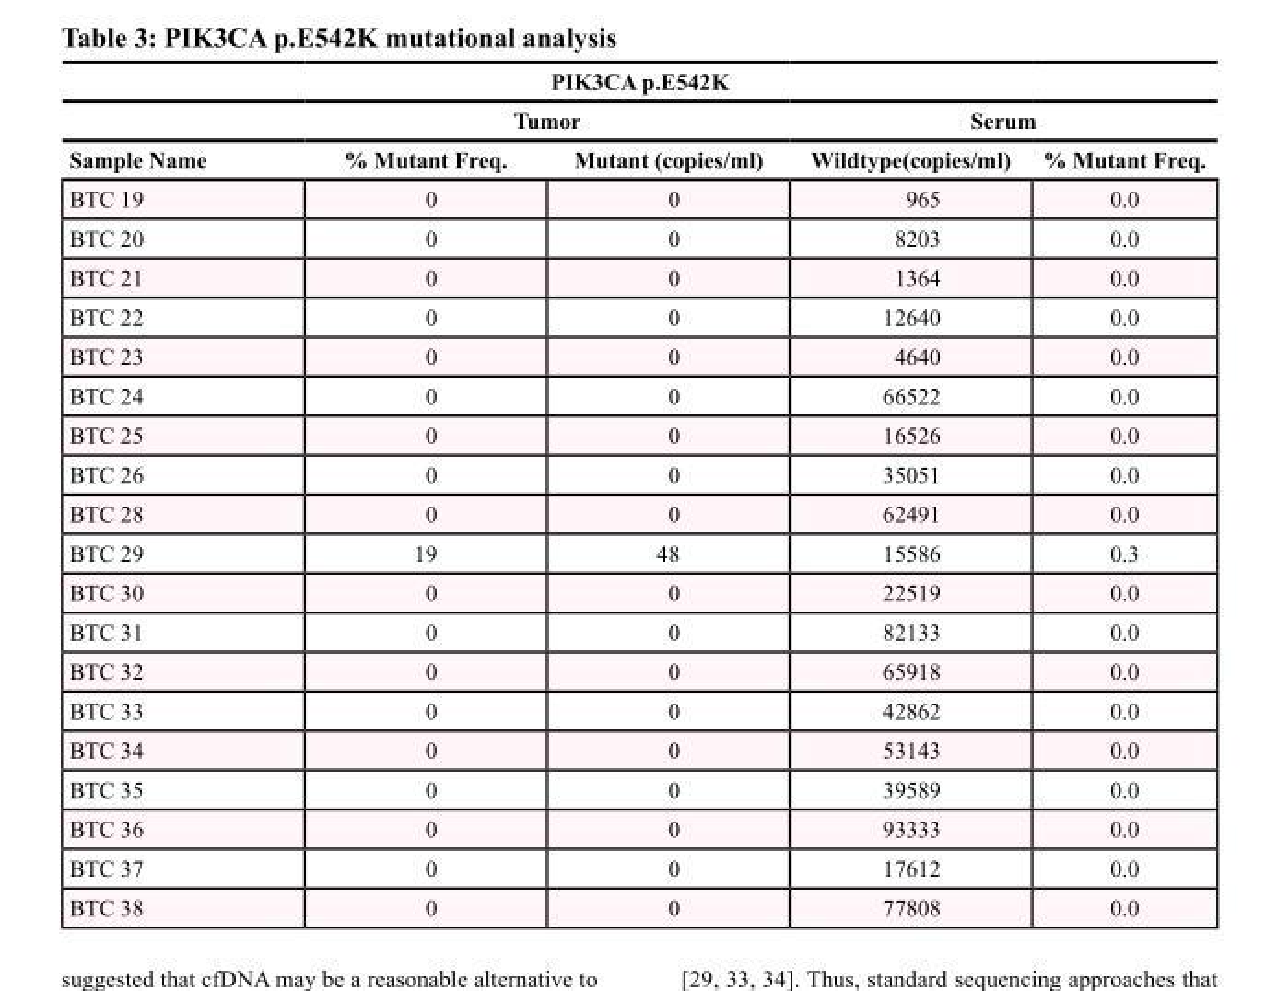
<table><thead><tr><td colspan="5">PIK3CA p.E542K</td></tr><tr><td rowspan="2">Sample Name</td><td colspan="2">Tumor</td><td colspan="2">Serum</td></tr><tr><td>% Mutant Freq.</td><td>Mutant (copies/ml)</td><td>Wildtype(copies/ml)</td><td>% Mutant Freq.</td></tr></thead><tbody><tr><td>BTC 19</td><td>0</td><td>0</td><td>965</td><td>0.0</td></tr><tr><td>BTC 20</td><td>0</td><td>0</td><td>8203</td><td>0.0</td></tr><tr><td>BTC 21</td><td>0</td><td>0</td><td>1364</td><td>0.0</td></tr><tr><td>BTC 22</td><td>0</td><td>0</td><td>12640</td><td>0.0</td></tr><tr><td>BTC 23</td><td>0</td><td>0</td><td>4640</td><td>0.0</td></tr><tr><td>BTC 24</td><td>0</td><td>0</td><td>66522</td><td>0.0</td></tr><tr><td>BTC 25</td><td>0</td><td>0</td><td>16526</td><td>0.0</td></tr><tr><td>BTC 26</td><td>0</td><td>0</td><td>35051</td><td>0.0</td></tr><tr><td>BTC 28</td><td>0</td><td>0</td><td>62491</td><td>0.0</td></tr><tr><td>BTC 29</td><td>19</td><td>48</td><td>15586</td><td>0.3</td></tr><tr><td>BTC 30</td><td>0</td><td>0</td><td>22519</td><td>0.0</td></tr><tr><td>BTC 31</td><td>0</td><td>0</td><td>82133</td><td>0.0</td></tr><tr><td>BTC 32</td><td>0</td><td>0</td><td>65918</td><td>0.0</td></tr><tr><td>BTC 33</td><td>0</td><td>0</td><td>42862</td><td>0.0</td></tr><tr><td>BTC 34</td><td>0</td><td>0</td><td>53143</td><td>0.0</td></tr><tr><td>BTC 35</td><td>0</td><td>0</td><td>39589</td><td>0.0</td></tr><tr><td>BTC 36</td><td>0</td><td>0</td><td>93333</td><td>0.0</td></tr><tr><td>BTC 37</td><td>0</td><td>0</td><td>17612</td><td>0.0</td></tr><tr><td>BTC 38</td><td>0</td><td>0</td><td>77808</td><td>0.0</td></tr></tbody></table>